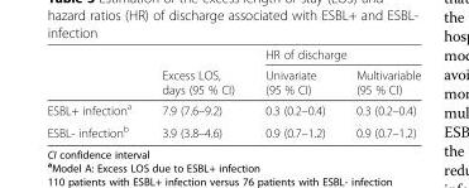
<table><thead><tr><td rowspan="2"></td><td rowspan="2">Excess LOS, days (95 % CI)</td><td colspan="2">HR of discharge</td></tr><tr><td>Univariate (95 % CI)</td><td>Multivariable (95 % CI)</td></tr></thead><tbody><tr><td>ESBL+ infection<sup>a</sup></td><td>7.9 (7.6–9.2)</td><td>0.3 (0.2–0.4)</td><td>0.3 (0.2–0.4)</td></tr><tr><td>ESBL- infection<sup>b</sup></td><td>3.9 (3.8–4.6)</td><td>0.9 (0.7–1.2)</td><td>0.9 (0.7–1.2)</td></tr></tbody></table>